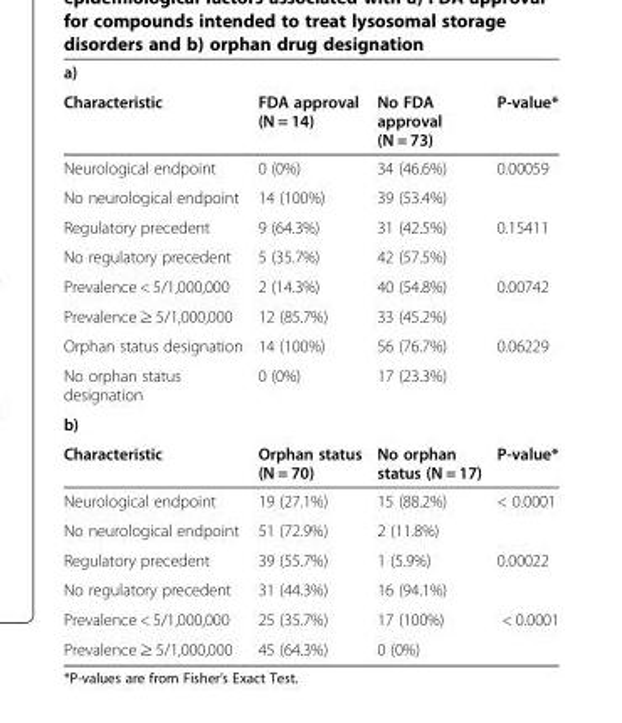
<table><tbody><tr><td colspan="4">a)</td></tr><tr><td>Characteristic</td><td>FDA approval (N = 14)</td><td>No FDA approval (N = 73)</td><td>P-value*</td></tr><tr><td>Neurological endpoint</td><td>0 (0%)</td><td>34 (46.6%)</td><td rowspan="2">0.00059</td></tr><tr><td>No neurological endpoint</td><td>14 (100%)</td><td>39 (53.4%)</td></tr><tr><td>Regulatory precedent</td><td>9 (64.3%)</td><td>31 (42.5%)</td><td rowspan="2">0.15411</td></tr><tr><td>No regulatory precedent</td><td>5 (35.7%)</td><td>42 (57.5%)</td></tr><tr><td>Prevalence &lt; 5/1,000,000</td><td>2 (14.3%)</td><td>40 (54.8%)</td><td rowspan="2">0.00742</td></tr><tr><td>Prevalence ≥ 5/1,000,000</td><td>12 (85.7%)</td><td>33 (45.2%)</td></tr><tr><td>Orphan status designation</td><td>14 (100%)</td><td>56 (76.7%)</td><td rowspan="2">0.06229</td></tr><tr><td>No orphan status designation</td><td>0 (0%)</td><td>17 (23.3%)</td></tr><tr><td colspan="4">b)</td></tr><tr><td>Characteristic</td><td>Orphan status (N = 70)</td><td>No orphan status (N = 17)</td><td>P-value*</td></tr><tr><td>Neurological endpoint</td><td>19 (27.1%)</td><td>15 (88.2%)</td><td rowspan="2">&lt; 0.0001</td></tr><tr><td>No neurological endpoint</td><td>51 (72.9%)</td><td>2 (11.8%)</td></tr><tr><td>Regulatory precedent</td><td>39 (55.7%)</td><td>1 (5.9%)</td><td rowspan="2">0.00022</td></tr><tr><td>No regulatory precedent</td><td>31 (44.3%)</td><td>16 (94.1%)</td></tr><tr><td>Prevalence &lt; 5/1,000,000</td><td>25 (35.7%)</td><td>17 (100%)</td><td rowspan="2">&lt; 0.0001</td></tr><tr><td>Prevalence ≥ 5/1,000,000</td><td>45 (64.3%)</td><td>0 (0%)</td></tr></tbody></table>